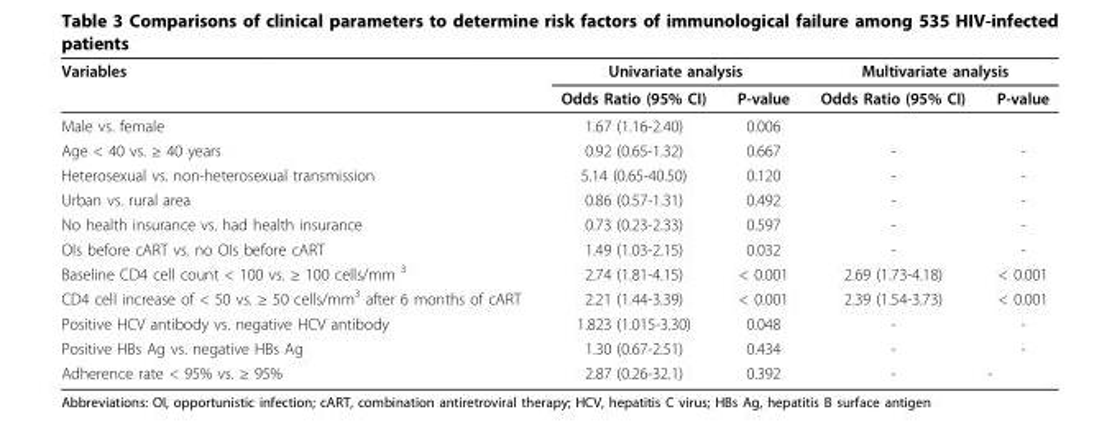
<table><thead><tr><td rowspan="2">Variables</td><td colspan="2">Univariate analysis</td><td colspan="2">Multivariate analysis</td></tr><tr><td>Odds Ratio (95% CI)</td><td>P-value</td><td>Odds Ratio (95% CI)</td><td>P-value</td></tr></thead><tbody><tr><td>Male vs. female</td><td>1.67 (1.16-2.40)</td><td>0.006</td><td></td><td></td></tr><tr><td>Age &lt; 40 vs. ≥ 40 years</td><td>0.92 (0.65-1.32)</td><td>0.667</td><td>-</td><td>-</td></tr><tr><td>Heterosexual vs. non-heterosexual transmission</td><td>5.14 (0.65-40.50)</td><td>0.120</td><td>-</td><td>-</td></tr><tr><td>Urban vs. rural area</td><td>0.86 (0.57-1.31)</td><td>0.492</td><td>-</td><td>-</td></tr><tr><td>No health insurance vs. had health insurance</td><td>0.73 (0.23-2.33)</td><td>0.597</td><td>-</td><td>-</td></tr><tr><td>OIs before cART vs. no OIs before cART</td><td>1.49 (1.03-2.15)</td><td>0.032</td><td>-</td><td>-</td></tr><tr><td>Baseline CD4 cell count &lt; 100 vs. ≥ 100 cells/mm <sup>3</sup></td><td>2.74 (1.81-4.15)</td><td>&lt; 0.001</td><td>2.69 (1.73-4.18)</td><td>&lt; 0.001</td></tr><tr><td>CD4 cell increase of &lt; 50 vs. ≥ 50 cells/mm<sup>3</sup> after 6 months of cART</td><td>2.21 (1.44-3.39)</td><td>&lt; 0.001</td><td>2.39 (1.54-3.73)</td><td>&lt; 0.001</td></tr><tr><td>Positive HCV antibody vs. negative HCV antibody</td><td>1.823 (1.015-3.30)</td><td>0.048</td><td>-</td><td>-</td></tr><tr><td>Positive HBs Ag vs. negative HBs Ag</td><td>1.30 (0.67-2.51)</td><td>0.434</td><td>-</td><td>-</td></tr><tr><td>Adherence rate &lt; 95% vs. ≥ 95%</td><td>2.87 (0.26-32.1)</td><td>0.392</td><td>-</td><td>-</td></tr></tbody></table>